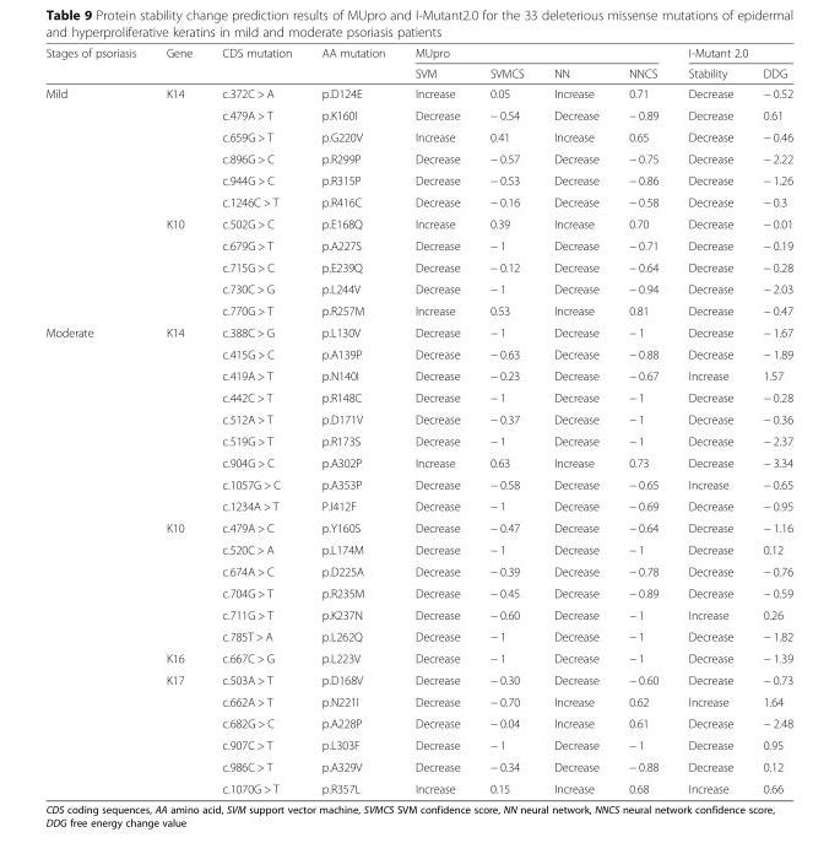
<table><thead><tr><td rowspan="2">Stages of psoriasis</td><td rowspan="2">Gene</td><td rowspan="2">CDS mutation</td><td rowspan="2">AA mutation</td><td colspan="4">MUpro</td><td colspan="2">I-Mutant 2.0</td></tr><tr><td>SVM</td><td>SVMCS</td><td>NN</td><td>NNCS</td><td>Stability</td><td>DDG</td></tr></thead><tbody><tr><td rowspan="11">Mild</td><td rowspan="6">K14</td><td>c.372C &gt; A</td><td>p.D124E</td><td>Increase</td><td>0.05</td><td>Increase</td><td>0.71</td><td>Decrease</td><td>− 0.52</td></tr><tr><td>c.479A &gt; T</td><td>p.K160I</td><td>Decrease</td><td>− 0.54</td><td>Decrease</td><td>− 0.89</td><td>Decrease</td><td>0.61</td></tr><tr><td>c.659G &gt; T</td><td>p.G220V</td><td>Increase</td><td>0.41</td><td>Increase</td><td>0.65</td><td>Decrease</td><td>− 0.46</td></tr><tr><td>c.896G &gt; C</td><td>p.R299P</td><td>Decrease</td><td>− 0.57</td><td>Decrease</td><td>− 0.75</td><td>Decrease</td><td>− 2.22</td></tr><tr><td>c.944G &gt; C</td><td>p.R315P</td><td>Decrease</td><td>− 0.53</td><td>Decrease</td><td>− 0.86</td><td>Decrease</td><td>− 1.26</td></tr><tr><td>c.1246C &gt; T</td><td>p.R416C</td><td>Decrease</td><td>− 0.16</td><td>Decrease</td><td>− 0.58</td><td>Decrease</td><td>− 0.3</td></tr><tr><td rowspan="5">K10</td><td>c.502G &gt; C</td><td>p.E168Q</td><td>Increase</td><td>0.39</td><td>Increase</td><td>0.70</td><td>Decrease</td><td>− 0.01</td></tr><tr><td>c.679G &gt; T</td><td>p.A227S</td><td>Decrease</td><td>− 1</td><td>Decrease</td><td>− 0.71</td><td>Decrease</td><td>− 0.19</td></tr><tr><td>c.715G &gt; C</td><td>p.E239Q</td><td>Decrease</td><td>− 0.12</td><td>Decrease</td><td>− 0.64</td><td>Decrease</td><td>− 0.28</td></tr><tr><td>c.730C &gt; G</td><td>p.L244V</td><td>Decrease</td><td>− 1</td><td>Decrease</td><td>− 0.94</td><td>Decrease</td><td>− 2.03</td></tr><tr><td>c.770G &gt; T</td><td>p.R257M</td><td>Increase</td><td>0.53</td><td>Increase</td><td>0.81</td><td>Decrease</td><td>− 0.47</td></tr><tr><td rowspan="22">Moderate</td><td rowspan="9">K14</td><td>c.388C &gt; G</td><td>p.L130V</td><td>Decrease</td><td>− 1</td><td>Decrease</td><td>− 1</td><td>Decrease</td><td>− 1.67</td></tr><tr><td>c.415G &gt; C</td><td>p.A139P</td><td>Decrease</td><td>− 0.63</td><td>Decrease</td><td>− 0.88</td><td>Decrease</td><td>− 1.89</td></tr><tr><td>c.419A &gt; T</td><td>p.N140I</td><td>Decrease</td><td>− 0.23</td><td>Decrease</td><td>− 0.67</td><td>Increase</td><td>1.57</td></tr><tr><td>c.442C &gt; T</td><td>p.R148C</td><td>Decrease</td><td>− 1</td><td>Decrease</td><td>− 1</td><td>Decrease</td><td>− 0.28</td></tr><tr><td>c.512A &gt; T</td><td>p.D171V</td><td>Decrease</td><td>− 0.37</td><td>Decrease</td><td>− 1</td><td>Decrease</td><td>− 0.36</td></tr><tr><td>c.519G &gt; T</td><td>p.R173S</td><td>Decrease</td><td>− 1</td><td>Decrease</td><td>− 1</td><td>Decrease</td><td>− 2.37</td></tr><tr><td>c.904G &gt; C</td><td>p.A302P</td><td>Increase</td><td>0.63</td><td>Increase</td><td>0.73</td><td>Decrease</td><td>− 3.34</td></tr><tr><td>c.1057G &gt; C</td><td>p.A353P</td><td>Decrease</td><td>− 0.58</td><td>Decrease</td><td>− 0.65</td><td>Increase</td><td>− 0.65</td></tr><tr><td>c.1234A &gt; T</td><td>P.I412F</td><td>Decrease</td><td>− 1</td><td>Decrease</td><td>− 0.69</td><td>Decrease</td><td>− 0.95</td></tr><tr><td rowspan="6">K10</td><td>c.479A &gt; C</td><td>p.Y160S</td><td>Decrease</td><td>− 0.47</td><td>Decrease</td><td>− 0.64</td><td>Decrease</td><td>− 1.16</td></tr><tr><td>c.520C &gt; A</td><td>p.L174M</td><td>Decrease</td><td>− 1</td><td>Decrease</td><td>− 1</td><td>Decrease</td><td>0.12</td></tr><tr><td>c.674A &gt; C</td><td>p.D225A</td><td>Decrease</td><td>− 0.39</td><td>Decrease</td><td>− 0.78</td><td>Decrease</td><td>− 0.76</td></tr><tr><td>c.704G &gt; T</td><td>p.R235M</td><td>Decrease</td><td>− 0.45</td><td>Decrease</td><td>− 0.89</td><td>Decrease</td><td>− 0.59</td></tr><tr><td>c.711G &gt; T</td><td>p.K237N</td><td>Decrease</td><td>− 0.60</td><td>Decrease</td><td>− 1</td><td>Increase</td><td>0.26</td></tr><tr><td>c.785T &gt; A</td><td>p.L262Q</td><td>Decrease</td><td>− 1</td><td>Decrease</td><td>− 1</td><td>Decrease</td><td>− 1.82</td></tr><tr><td>K16</td><td>c.667C &gt; G</td><td>p.L223V</td><td>Decrease</td><td>− 1</td><td>Decrease</td><td>− 1</td><td>Decrease</td><td>− 1.39</td></tr><tr><td rowspan="6">K17</td><td>c.503A &gt; T</td><td>p.D168V</td><td>Decrease</td><td>− 0.30</td><td>Decrease</td><td>− 0.60</td><td>Decrease</td><td>− 0.73</td></tr><tr><td>c.662A &gt; T</td><td>p.N221I</td><td>Decrease</td><td>− 0.70</td><td>Increase</td><td>0.62</td><td>Increase</td><td>1.64</td></tr><tr><td>c.682G &gt; C</td><td>p.A228P</td><td>Decrease</td><td>− 0.04</td><td>Increase</td><td>0.61</td><td>Decrease</td><td>− 2.48</td></tr><tr><td>c.907C &gt; T</td><td>p.L303F</td><td>Decrease</td><td>− 1</td><td>Decrease</td><td>− 1</td><td>Decrease</td><td>0.95</td></tr><tr><td>c.986C &gt; T</td><td>p.A329V</td><td>Decrease</td><td>− 0.34</td><td>Decrease</td><td>− 0.88</td><td>Decrease</td><td>0.12</td></tr><tr><td>c.1070G &gt; T</td><td>p.R357L</td><td>Increase</td><td>0.15</td><td>Increase</td><td>0.68</td><td>Increase</td><td>0.66</td></tr></tbody></table>